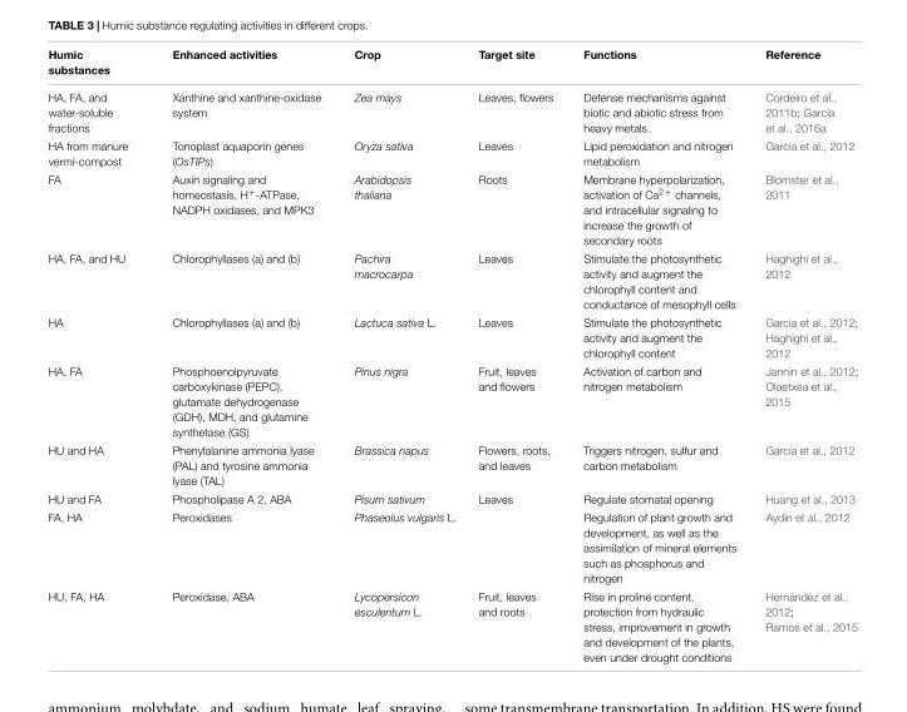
<table><thead><tr><td>Humic substances</td><td>Enhanced activities</td><td>Crop</td><td>Target site</td><td>Functions</td><td>Reference</td></tr></thead><tbody><tr><td>HA, FA, and water-soluble fractions</td><td>Xanthine and xanthine-oxidase system</td><td>Zea mays</td><td>Leaves, flowers</td><td>Defense mechanisms against biotic and abiotic stress from heavy metals</td><td>Cordeiro et al., 2011b; García et al., 2016a</td></tr><tr><td>HA from manure vermi-compost</td><td>Tonoplast aquaporin genes (OsTIPs)</td><td>Oryza sativa</td><td>Leaves</td><td>Lipid peroxidation and nitrogen metabolism</td><td>García et al., 2012</td></tr><tr><td>FA</td><td>Auxin signaling and homeostasis, H<sup>+</sup>-ATPase, NADPH oxidases, and MPK3</td><td>Arabidopsis thaliana</td><td>Roots</td><td>Membrane hyperpolarization, activation of Ca<sup>2+</sup> channels, and intracellular signaling to increase the growth of secondary roots</td><td>Blomster et al., 2011</td></tr><tr><td>HA, FA, and HU</td><td>Chlorophyllases (a) and (b)</td><td>Pachira macrocarpa</td><td>Leaves</td><td>Stimulate the photosynthetic activity and augment the chlorophyll content and conductance of mesophyll cells</td><td>Haghighi et al., 2012</td></tr><tr><td>HA</td><td>Chlorophyllases (a) and (b)</td><td>Lactuca sativa L.</td><td>Leaves</td><td>Stimulate the photosynthetic activity and augment the chlorophyll content</td><td>García et al., 2012; Haghighi et al., 2012</td></tr><tr><td>HA, FA</td><td>Phosphoenolpyruvate carboxykinase (PEPC), glutamate dehydrogenase (GDH), MDH, and glutamine synthetase (GS)</td><td>Pinus nigra</td><td>Fruit, leaves and flowers</td><td>Activation of carbon and nitrogen metabolism</td><td>Jannin et al., 2012; Olaetxea et al., 2015</td></tr><tr><td>HU and HA</td><td>Phenylalanine ammonia lyase (PAL) and tyrosine ammonia lyase (TAL)</td><td>Brassica napus</td><td>Flowers, roots, and leaves</td><td>Triggers nitrogen, sulfur and carbon metabolism</td><td>García et al., 2012</td></tr><tr><td>HU and FA</td><td>Phospholipase A 2, ABA</td><td>Pisum sativum</td><td>Leaves</td><td>Regulate stomatal opening</td><td>Huang et al., 2013</td></tr><tr><td>FA, HA</td><td>Peroxidases</td><td>Phaseolus vulgaris L.</td><td></td><td>Regulation of plant growth and development, as well as the assimilation of mineral elements such as phosphorus and nitrogen</td><td>Aydin et al., 2012</td></tr><tr><td>HU, FA, HA</td><td>Peroxidase, ABA</td><td>Lycopersicon esculentum L.</td><td>Fruit, leaves and roots</td><td>Rise in proline content, protection from hydraulic stress, improvement in growth and development of the plants, even under drought conditions</td><td>Hernández et al., 2012; Ramos et al., 2015</td></tr></tbody></table>